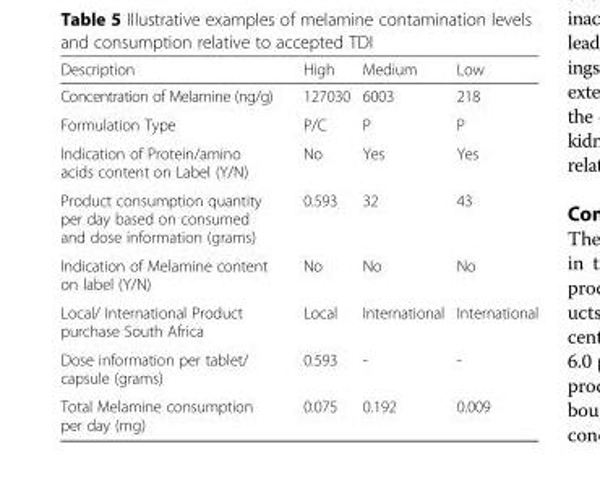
<table><thead><tr><td>Description</td><td>High</td><td>Medium</td><td>Low</td></tr></thead><tbody><tr><td>Concentration of Melamine (ng/g)</td><td>127030</td><td>6003</td><td>218</td></tr><tr><td>Formulation Type</td><td>P/C</td><td>P</td><td>P</td></tr><tr><td>Indication of Protein/amino acids content on Label (Y/N)</td><td>No</td><td>Yes</td><td>Yes</td></tr><tr><td>Product consumption quantity per day based on consumed and dose information (grams)</td><td>0.593</td><td>32</td><td>43</td></tr><tr><td>Indication of Melamine content on label (Y/N)</td><td>No</td><td>No</td><td>No</td></tr><tr><td>Local/ International Product purchase South Africa</td><td>Local</td><td>International</td><td>International</td></tr><tr><td>Dose information per tablet/ capsule (grams)</td><td>0.593</td><td>-</td><td>-</td></tr><tr><td>Total Melamine consumption per day (mg)</td><td>0.075</td><td>0.192</td><td>0.009</td></tr></tbody></table>